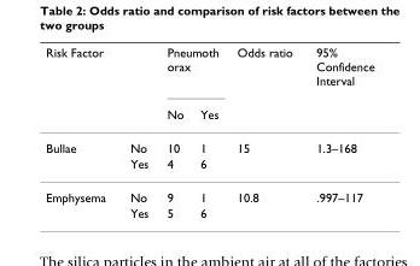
<table><thead><tr><td rowspan="2">Risk Factor</td><td rowspan="2"></td><td colspan="2">Pneumoth orax</td><td rowspan="2">Odds ratio</td><td rowspan="2">95% Confidence Interval</td></tr><tr><td>No</td><td>Yes</td></tr></thead><tbody><tr><td rowspan="2">Bullae</td><td>No</td><td>10</td><td>1</td><td>15</td><td>1.3–168</td></tr><tr><td>Yes</td><td>4</td><td>6</td><td></td><td></td></tr><tr><td rowspan="2">Emphysema</td><td>No</td><td>9</td><td>1</td><td>10.8</td><td>.997–117</td></tr><tr><td>Yes</td><td>5</td><td>6</td><td></td><td></td></tr></tbody></table>